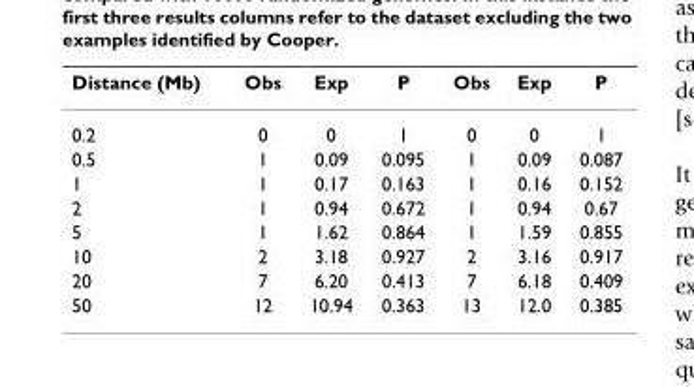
<table><thead><tr><td>Distance (Mb)</td><td>Obs</td><td>Exp</td><td>P</td><td>Obs</td><td>Exp</td><td>P</td></tr></thead><tbody><tr><td>0.2</td><td>0</td><td>0</td><td>1</td><td>0</td><td>0</td><td>1</td></tr><tr><td>0.5</td><td>1</td><td>0.09</td><td>0.095</td><td>1</td><td>0.09</td><td>0.087</td></tr><tr><td>1</td><td>1</td><td>0.17</td><td>0.163</td><td>1</td><td>0.16</td><td>0.152</td></tr><tr><td>2</td><td>1</td><td>0.94</td><td>0.672</td><td>1</td><td>0.94</td><td>0.67</td></tr><tr><td>5</td><td>1</td><td>1.62</td><td>0.864</td><td>1</td><td>1.59</td><td>0.855</td></tr><tr><td>10</td><td>2</td><td>3.18</td><td>0.927</td><td>2</td><td>3.16</td><td>0.917</td></tr><tr><td>20</td><td>7</td><td>6.20</td><td>0.413</td><td>7</td><td>6.18</td><td>0.409</td></tr><tr><td>50</td><td>12</td><td>10.94</td><td>0.363</td><td>13</td><td>12.0</td><td>0.385</td></tr></tbody></table>